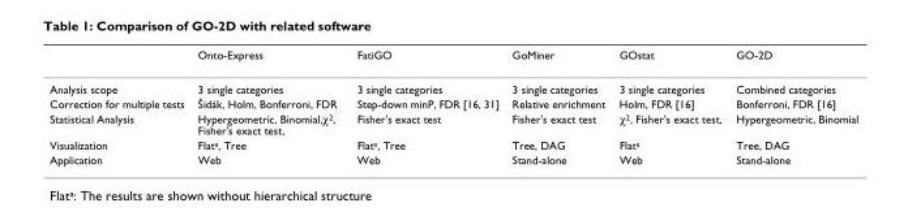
<table><thead><tr><td></td><td>Onto-Express</td><td>FatiGO</td><td>GoMiner</td><td>GOstat</td><td>GO-2D</td></tr></thead><tbody><tr><td>Analysis scope</td><td>3 single categories</td><td>3 single categories</td><td>3 single categories</td><td>3 single categories</td><td>Combined categories</td></tr><tr><td>Correction for multiple tests</td><td>Šidák, Holm, Bonferroni, FDR</td><td>Step-down minP, FDR [16, 31]</td><td>Relative enrichment</td><td>Holm, FDR [16]</td><td>Bonferroni, FDR [16]</td></tr><tr><td>Statistical Analysis</td><td>Hypergeometric, Binomial,χ<sup>2</sup>, Fisher&#x27;s exact test,</td><td>Fisher&#x27;s exact test</td><td>Fisher&#x27;s exact test</td><td>χ<sup>2</sup>, Fisher&#x27;s exact test,</td><td>Hypergeometric, Binomial</td></tr><tr><td>Visualization</td><td>Flat<sup>a</sup>, Tree</td><td>Flat<sup>a</sup>, Tree</td><td>Tree, DAG</td><td>Flat<sup>a</sup></td><td>Tree, DAG</td></tr><tr><td>Application</td><td>Web</td><td>Web</td><td>Stand-alone</td><td>Web</td><td>Stand-alone</td></tr></tbody></table>